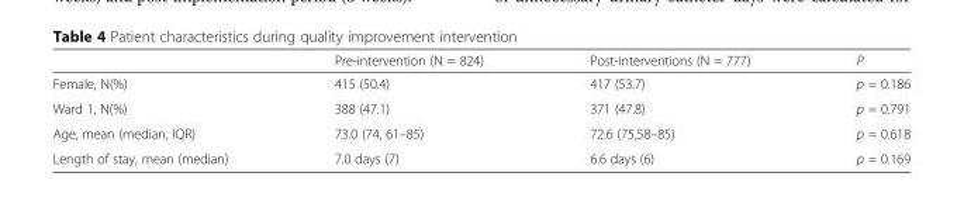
<table><thead><tr><td></td><td>Pre-intervention (N = 824)</td><td>Post-interventions (N = 777)</td><td>P</td></tr></thead><tbody><tr><td>Female, N(%)</td><td>415 (50.4)</td><td>417 (53.7)</td><td>p = 0.186</td></tr><tr><td>Ward 1, N(%)</td><td>388 (47.1)</td><td>371 (47.8)</td><td>p = 0.791</td></tr><tr><td>Age, mean (median, IQR)</td><td>73.0 (74, 61–85)</td><td>72.6 (75,58–85)</td><td>p = 0.618</td></tr><tr><td>Length of stay, mean (median)</td><td>7.0 days (7)</td><td>6.6 days (6)</td><td>p = 0.169</td></tr></tbody></table>